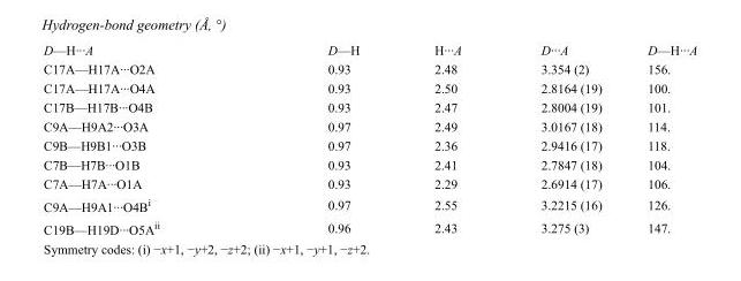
<table><tbody><tr><td>D—H···A</td><td>D—H</td><td>H···A</td><td>D···A</td><td>D—H···A</td></tr><tr><td>C17A—H17A···O2A</td><td>0.93</td><td>2.48</td><td>3.354 (2)</td><td>156.</td></tr><tr><td>C17A—H17A···O4A</td><td>0.93</td><td>2.50</td><td>2.8164 (19)</td><td>100.</td></tr><tr><td>C17B—H17B···O4B</td><td>0.93</td><td>2.47</td><td>2.8004 (19)</td><td>101.</td></tr><tr><td>C9A—H9A2···O3A</td><td>0.97</td><td>2.49</td><td>3.0167 (18)</td><td>114.</td></tr><tr><td>C9B—H9B1···O3B</td><td>0.97</td><td>2.36</td><td>2.9416 (17)</td><td>118.</td></tr><tr><td>C7B—H7B···O1B</td><td>0.93</td><td>2.41</td><td>2.7847 (18)</td><td>104.</td></tr><tr><td>C7A—H7A···O1A</td><td>0.93</td><td>2.29</td><td>2.6914 (17)</td><td>106.</td></tr><tr><td>C9A—H9A1···O4B<sup>i</sup></td><td>0.97</td><td>2.55</td><td>3.2215 (16)</td><td>126.</td></tr><tr><td>C19B—H19D···O5A<sup>ii</sup></td><td>0.96</td><td>2.43</td><td>3.275 (3)</td><td>147.</td></tr></tbody></table>